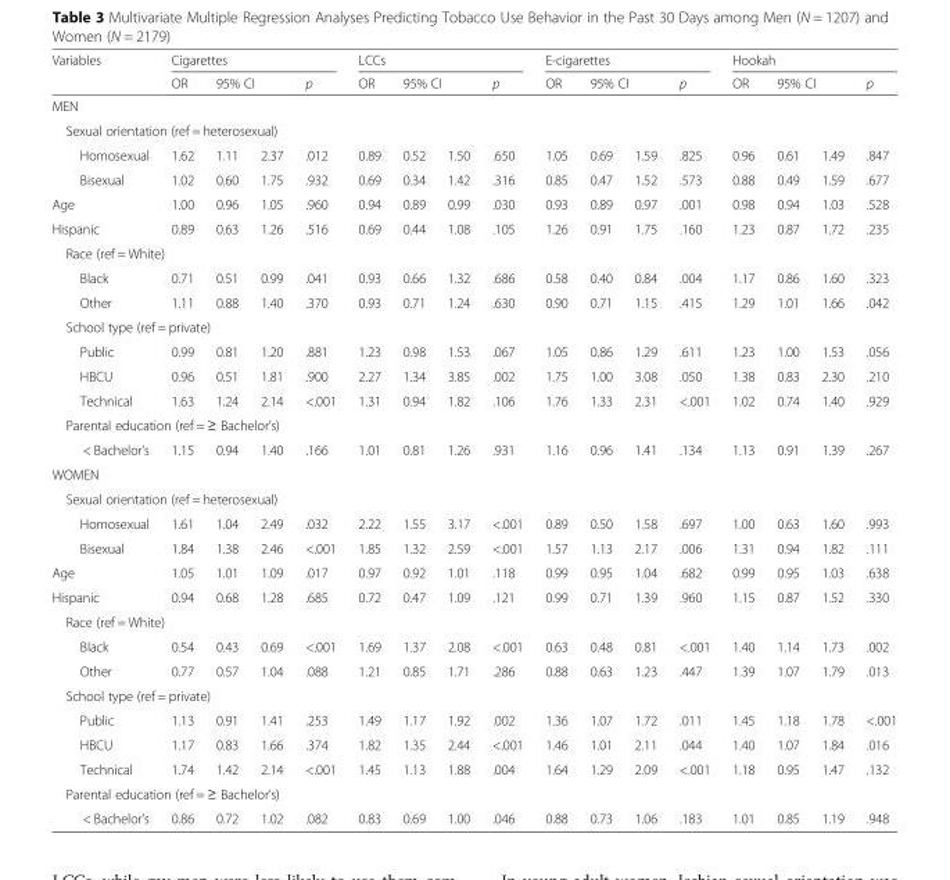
<table><thead><tr><td rowspan="2">Variables</td><td colspan="4">Cigarettes</td><td colspan="4">LCCs</td><td colspan="4">E-cigarettes</td><td colspan="4">Hookah</td></tr><tr><td>OR</td><td colspan="2">95% CI</td><td>p</td><td>OR</td><td colspan="2">95% CI</td><td>p</td><td>OR</td><td colspan="2">95% CI</td><td>p</td><td>OR</td><td colspan="2">95% CI</td><td>p</td></tr><tr><td rowspan="2" colspan="17">MEN Sexual orientation (ref = heterosexual)</td></tr><tr></tr><tr><td>Homosexual</td><td>1.62</td><td>1.11</td><td>2.37</td><td>.012</td><td>0.89</td><td>0.52</td><td>1.50</td><td>.650</td><td>1.05</td><td>0.69</td><td>1.59</td><td>.825</td><td>0.96</td><td>0.61</td><td>1.49</td><td>.847</td></tr></thead><tbody><tr><td>Bisexual</td><td>1.02</td><td>0.60</td><td>1.75</td><td>.932</td><td>0.69</td><td>0.34</td><td>1.42</td><td>.316</td><td>0.85</td><td>0.47</td><td>1.52</td><td>.573</td><td>0.88</td><td>0.49</td><td>1.59</td><td>.677</td></tr><tr><td>Age</td><td>1.00</td><td>0.96</td><td>1.05</td><td>.960</td><td>0.94</td><td>0.89</td><td>0.99</td><td>.030</td><td>0.93</td><td>0.89</td><td>0.97</td><td>.001</td><td>0.98</td><td>0.94</td><td>1.03</td><td>.528</td></tr><tr><td>Hispanic</td><td>0.89</td><td>0.63</td><td>1.26</td><td>.516</td><td>0.69</td><td>0.44</td><td>1.08</td><td>.105</td><td>1.26</td><td>0.91</td><td>1.75</td><td>.160</td><td>1.23</td><td>0.87</td><td>1.72</td><td>.235</td></tr><tr><td colspan="17">Race (ref = White)</td></tr><tr><td>Black</td><td>0.71</td><td>0.51</td><td>0.99</td><td>.041</td><td>0.93</td><td>0.66</td><td>1.32</td><td>.686</td><td>0.58</td><td>0.40</td><td>0.84</td><td>.004</td><td>1.17</td><td>0.86</td><td>1.60</td><td>.323</td></tr><tr><td>Other</td><td>1.11</td><td>0.88</td><td>1.40</td><td>.370</td><td>0.93</td><td>0.71</td><td>1.24</td><td>.630</td><td>0.90</td><td>0.71</td><td>1.15</td><td>.415</td><td>1.29</td><td>1.01</td><td>1.66</td><td>.042</td></tr><tr><td colspan="17">School type (ref = private)</td></tr><tr><td>Public</td><td>0.99</td><td>0.81</td><td>1.20</td><td>.881</td><td>1.23</td><td>0.98</td><td>1.53</td><td>.067</td><td>1.05</td><td>0.86</td><td>1.29</td><td>.611</td><td>1.23</td><td>1.00</td><td>1.53</td><td>.056</td></tr><tr><td>HBCU</td><td>0.96</td><td>0.51</td><td>1.81</td><td>.900</td><td>2.27</td><td>1.34</td><td>3.85</td><td>.002</td><td>1.75</td><td>1.00</td><td>3.08</td><td>.050</td><td>1.38</td><td>0.83</td><td>2.30</td><td>.210</td></tr><tr><td>Technical</td><td>1.63</td><td>1.24</td><td>2.14</td><td>&lt;.001</td><td>1.31</td><td>0.94</td><td>1.82</td><td>.106</td><td>1.76</td><td>1.33</td><td>2.31</td><td>&lt;.001</td><td>1.02</td><td>0.74</td><td>1.40</td><td>.929</td></tr><tr><td colspan="17">Parental education (ref = ≥ Bachelor’s)</td></tr><tr><td>&lt; Bachelor’s</td><td>1.15</td><td>0.94</td><td>1.40</td><td>.166</td><td>1.01</td><td>0.81</td><td>1.26</td><td>.931</td><td>1.16</td><td>0.96</td><td>1.41</td><td>.134</td><td>1.13</td><td>0.91</td><td>1.39</td><td>.267</td></tr><tr><td colspan="17">WOMEN</td></tr><tr><td colspan="17">Sexual orientation (ref = heterosexual)</td></tr><tr><td>Homosexual</td><td>1.61</td><td>1.04</td><td>2.49</td><td>.032</td><td>2.22</td><td>1.55</td><td>3.17</td><td>&lt;.001</td><td>0.89</td><td>0.50</td><td>1.58</td><td>.697</td><td>1.00</td><td>0.63</td><td>1.60</td><td>.993</td></tr><tr><td>Bisexual</td><td>1.84</td><td>1.38</td><td>2.46</td><td>&lt;.001</td><td>1.85</td><td>1.32</td><td>2.59</td><td>&lt;.001</td><td>1.57</td><td>1.13</td><td>2.17</td><td>.006</td><td>1.31</td><td>0.94</td><td>1.82</td><td>.111</td></tr><tr><td>Age</td><td>1.05</td><td>1.01</td><td>1.09</td><td>.017</td><td>0.97</td><td>0.92</td><td>1.01</td><td>.118</td><td>0.99</td><td>0.95</td><td>1.04</td><td>.682</td><td>0.99</td><td>0.95</td><td>1.03</td><td>.638</td></tr><tr><td>Hispanic</td><td>0.94</td><td>0.68</td><td>1.28</td><td>.685</td><td>0.72</td><td>0.47</td><td>1.09</td><td>.121</td><td>0.99</td><td>0.71</td><td>1.39</td><td>.960</td><td>1.15</td><td>0.87</td><td>1.52</td><td>.330</td></tr><tr><td colspan="17">Race (ref = White)</td></tr><tr><td>Black</td><td>0.54</td><td>0.43</td><td>0.69</td><td>&lt;.001</td><td>1.69</td><td>1.37</td><td>2.08</td><td>&lt;.001</td><td>0.63</td><td>0.48</td><td>0.81</td><td>&lt;.001</td><td>1.40</td><td>1.14</td><td>1.73</td><td>.002</td></tr><tr><td>Other</td><td>0.77</td><td>0.57</td><td>1.04</td><td>.088</td><td>1.21</td><td>0.85</td><td>1.71</td><td>.286</td><td>0.88</td><td>0.63</td><td>1.23</td><td>.447</td><td>1.39</td><td>1.07</td><td>1.79</td><td>.013</td></tr><tr><td colspan="17">School type (ref = private)</td></tr><tr><td>Public</td><td>1.13</td><td>0.91</td><td>1.41</td><td>.253</td><td>1.49</td><td>1.17</td><td>1.92</td><td>.002</td><td>1.36</td><td>1.07</td><td>1.72</td><td>.011</td><td>1.45</td><td>1.18</td><td>1.78</td><td>&lt;.001</td></tr><tr><td>HBCU</td><td>1.17</td><td>0.83</td><td>1.66</td><td>.374</td><td>1.82</td><td>1.35</td><td>2.44</td><td>&lt;.001</td><td>1.46</td><td>1.01</td><td>2.11</td><td>.044</td><td>1.40</td><td>1.07</td><td>1.84</td><td>.016</td></tr><tr><td>Technical</td><td>1.74</td><td>1.42</td><td>2.14</td><td>&lt;.001</td><td>1.45</td><td>1.13</td><td>1.88</td><td>.004</td><td>1.64</td><td>1.29</td><td>2.09</td><td>&lt;.001</td><td>1.18</td><td>0.95</td><td>1.47</td><td>.132</td></tr><tr><td colspan="17">Parental education (ref = ≥ Bachelor’s)</td></tr><tr><td>&lt; Bachelor’s</td><td>0.86</td><td>0.72</td><td>1.02</td><td>.082</td><td>0.83</td><td>0.69</td><td>1.00</td><td>.046</td><td>0.88</td><td>0.73</td><td>1.06</td><td>.183</td><td>1.01</td><td>0.85</td><td>1.19</td><td>.948</td></tr></tbody></table>